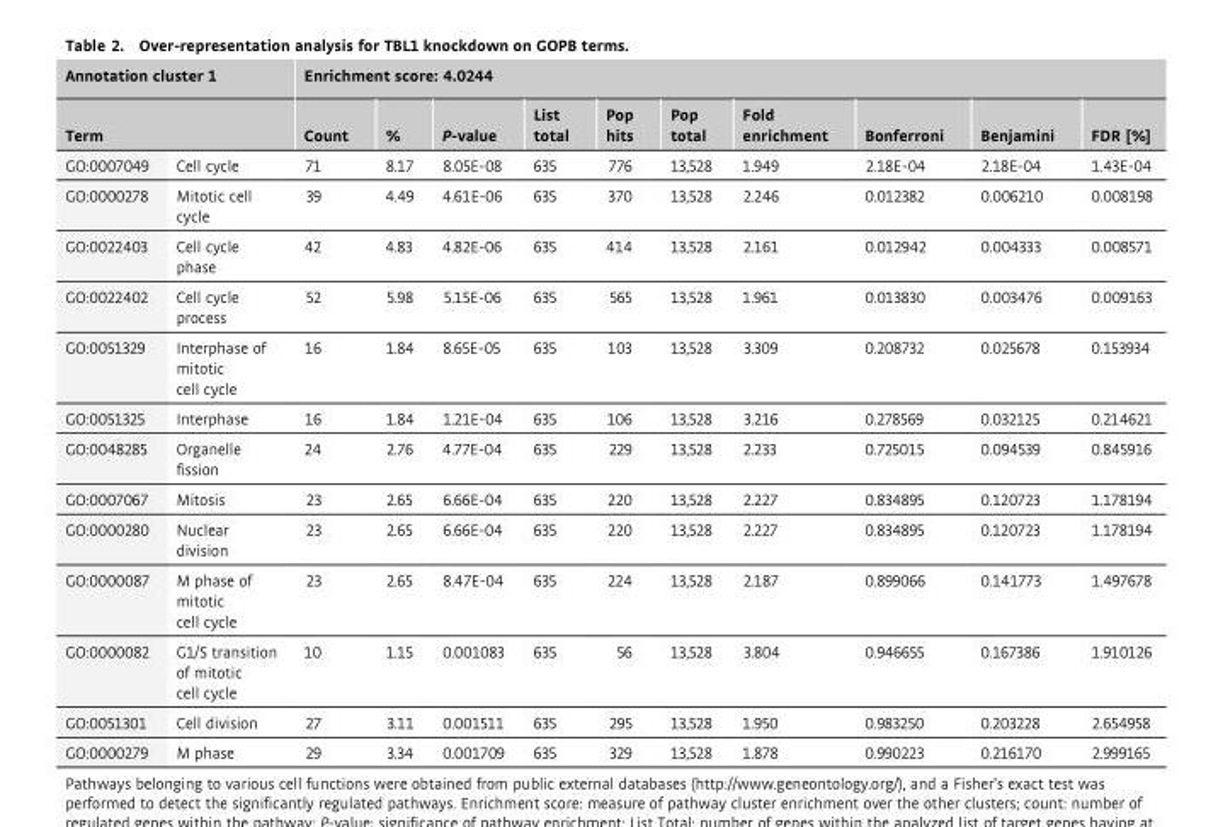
<table><thead><tr><td rowspan="2" colspan="2">Annotation cluster 1 Term</td><td colspan="10">Enrichment score: 4.0244</td></tr><tr><td rowspan="2">Count 71</td><td rowspan="2">% 8.17</td><td rowspan="2">P-value 8.05E-08</td><td rowspan="2">List total 635</td><td rowspan="2">Pop hits 776</td><td rowspan="2">Pop total 13,528</td><td rowspan="2">Fold enrichment 1.949</td><td rowspan="2">Bonferroni 2.18E-04</td><td rowspan="2">Benjamini 2.18E-04</td><td rowspan="2">FDR [%] 1.43E-04</td></tr><tr><td>GO:0007049</td><td>Cell cycle</td></tr></thead><tbody><tr><td>GO:0000278</td><td>Mitotic cell cycle</td><td>39</td><td>4.49</td><td>4.61E-06</td><td>635</td><td>370</td><td>13,528</td><td>2.246</td><td>0.012382</td><td>0.006210</td><td>0.008198</td></tr><tr><td>GO:0022403</td><td>Cell cycle phase</td><td>42</td><td>4.83</td><td>4.82E-06</td><td>635</td><td>414</td><td>13,528</td><td>2.161</td><td>0.012942</td><td>0.004333</td><td>0.008571</td></tr><tr><td>GO:0022402</td><td>Cell cycle process</td><td>52</td><td>5.98</td><td>5.15E-06</td><td>635</td><td>565</td><td>13,528</td><td>1.961</td><td>0.013830</td><td>0.003476</td><td>0.009163</td></tr><tr><td>GO:0051329</td><td>Interphase of mitotic cell cycle</td><td>16</td><td>1.84</td><td>8.65E-05</td><td>635</td><td>103</td><td>13,528</td><td>3.309</td><td>0.208732</td><td>0.025678</td><td>0.153934</td></tr><tr><td>GO:0051325</td><td>Interphase</td><td>16</td><td>1.84</td><td>1.21E-04</td><td>635</td><td>106</td><td>13,528</td><td>3.216</td><td>0.278569</td><td>0.032125</td><td>0.214621</td></tr><tr><td>GO:0048285</td><td>Organelle fission</td><td>24</td><td>2.76</td><td>4.77E-04</td><td>635</td><td>229</td><td>13,528</td><td>2.233</td><td>0.725015</td><td>0.094539</td><td>0.845916</td></tr><tr><td>GO:0007067</td><td>Mitosis</td><td>23</td><td>2.65</td><td>6.66E-04</td><td>635</td><td>220</td><td>13,528</td><td>2.227</td><td>0.834895</td><td>0.120723</td><td>1.178194</td></tr><tr><td>GO:0000280</td><td>Nuclear division</td><td>23</td><td>2.65</td><td>6.66E-04</td><td>635</td><td>220</td><td>13,528</td><td>2.227</td><td>0.834895</td><td>0.120723</td><td>1.178194</td></tr><tr><td>GO:0000087</td><td>M phase of mitotic cell cycle</td><td>23</td><td>2.65</td><td>8.47E-04</td><td>635</td><td>224</td><td>13,528</td><td>2.187</td><td>0.899066</td><td>0.141773</td><td>1.497678</td></tr><tr><td>GO:0000082</td><td>G1/S transition of mitotic cell cycle</td><td>10</td><td>1.15</td><td>0.001083</td><td>635</td><td>56</td><td>13,528</td><td>3.804</td><td>0.946655</td><td>0.167386</td><td>1.910126</td></tr><tr><td>GO:0051301</td><td>Cell division</td><td>27</td><td>3.11</td><td>0.001511</td><td>635</td><td>295</td><td>13,528</td><td>1.950</td><td>0.983250</td><td>0.203228</td><td>2.654958</td></tr><tr><td>GO:0000279</td><td>M phase</td><td>29</td><td>3.34</td><td>0.001709</td><td>635</td><td>329</td><td>13,528</td><td>1.878</td><td>0.990223</td><td>0.216170</td><td>2.999165</td></tr></tbody></table>